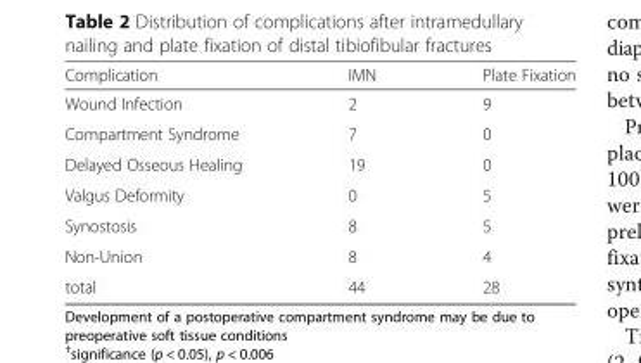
<table><thead><tr><td>Complication</td><td>IMN</td><td>Plate Fixation</td></tr></thead><tbody><tr><td>Wound Infection</td><td>2</td><td>9</td></tr><tr><td>Compartment Syndrome</td><td>7</td><td>0</td></tr><tr><td>Delayed Osseous Healing</td><td>19</td><td>0</td></tr><tr><td>Valgus Deformity</td><td>0</td><td>5</td></tr><tr><td>Synostosis</td><td>8</td><td>5</td></tr><tr><td>Non-Union</td><td>8</td><td>4</td></tr><tr><td>total</td><td>44</td><td>28</td></tr></tbody></table>